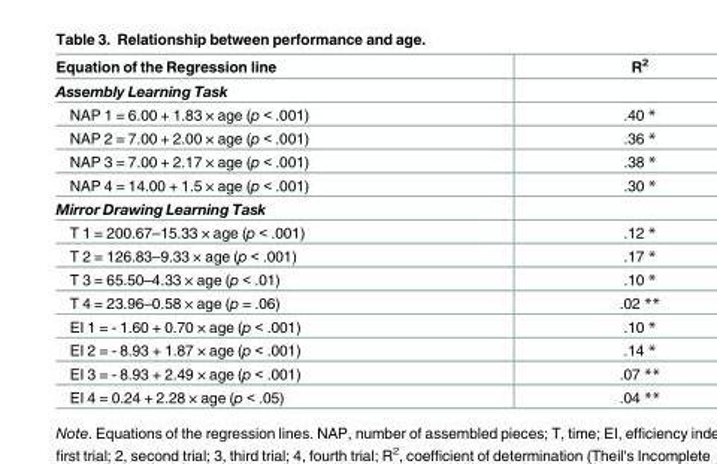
<table><thead><tr><td>Equation of the Regression line</td><td>R<sup>2</sup></td></tr></thead><tbody><tr><td colspan="2">Assembly Learning Task</td></tr><tr><td>NAP 1 = 6.00 + 1.83 × age (p &lt; .001)</td><td>.40 *</td></tr><tr><td>NAP 2 = 7.00 + 2.00 × age (p &lt; .001)</td><td>.36 *</td></tr><tr><td>NAP 3 = 7.00 + 2.17 × age (p &lt; .001)</td><td>.38 *</td></tr><tr><td>NAP 4 = 14.00 + 1.5 × age (p &lt; .001)</td><td>.30 *</td></tr><tr><td colspan="2">Mirror Drawing Learning Task</td></tr><tr><td>T 1 = 200.67–15.33 × age (p &lt; .001)</td><td>.12 *</td></tr><tr><td>T 2 = 126.83–9.33 × age (p &lt; .001)</td><td>.17 *</td></tr><tr><td>T 3 = 65.50–4.33 × age (p &lt; .01)</td><td>.10 *</td></tr><tr><td>T 4 = 23.96–0.58 × age (p = .06)</td><td>.02 **</td></tr><tr><td>EI 1 = - 1.60 + 0.70 × age (p &lt; .001)</td><td>.10 *</td></tr><tr><td>EI 2 = - 8.93 + 1.87 × age (p &lt; .001)</td><td>.14 *</td></tr><tr><td>EI 3 = - 8.93 + 2.49 × age (p &lt; .001)</td><td>.07 **</td></tr><tr><td>EI 4 = 0.24 + 2.28 × age (p &lt; .05)</td><td>.04 **</td></tr></tbody></table>